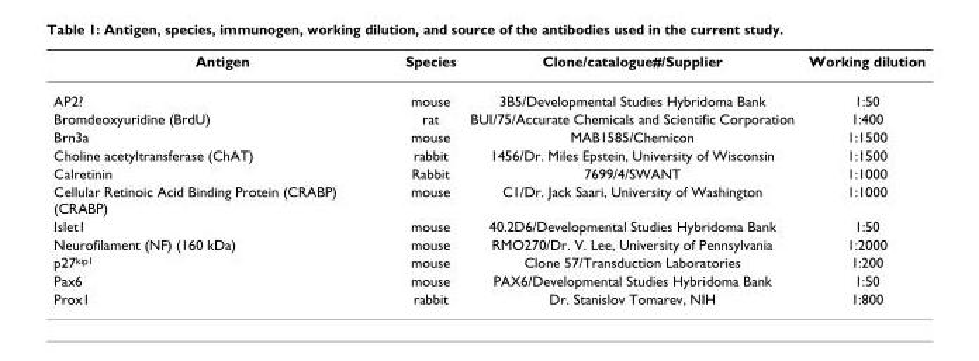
<table><thead><tr><td>Antigen</td><td>Species</td><td>Clone/catalogue#/Supplier</td><td>Working dilution</td></tr></thead><tbody><tr><td>AP2?</td><td>mouse</td><td>3B5/Developmental Studies Hybridoma Bank</td><td>1:50</td></tr><tr><td>Bromdeoxyuridine (BrdU)</td><td>rat</td><td>BUI/75/Accurate Chemicals and Scientific Corporation</td><td>1:400</td></tr><tr><td>Brn3a</td><td>mouse</td><td>MAB1585/Chemicon</td><td>1:1500</td></tr><tr><td>Choline acetyltransferase (ChAT)</td><td>rabbit</td><td>1456/Dr. Miles Epstein, University of Wisconsin</td><td>1:1500</td></tr><tr><td>Calretinin</td><td>Rabbit</td><td>7699/4/SWANT</td><td>1:1000</td></tr><tr><td>Cellular Retinoic Acid Binding Protein (CRABP) (CRABP)</td><td>mouse</td><td>C1/Dr. Jack Saari, University of Washington</td><td>1:1000</td></tr><tr><td>Islet1</td><td>mouse</td><td>40.2D6/Developmental Studies Hybridoma Bank</td><td>1:50</td></tr><tr><td>Neurofilament (NF) (160 kDa)</td><td>mouse</td><td>RMO270/Dr. V. Lee, University of Pennsylvania</td><td>1:2000</td></tr><tr><td>p27<sup>kip1</sup></td><td>mouse</td><td>Clone 57/Transduction Laboratories</td><td>1:200</td></tr><tr><td>Pax6</td><td>mouse</td><td>PAX6/Developmental Studies Hybridoma Bank</td><td>1:50</td></tr><tr><td>Prox1</td><td>rabbit</td><td>Dr. Stanislov Tomarev, NIH</td><td>1:800</td></tr></tbody></table>